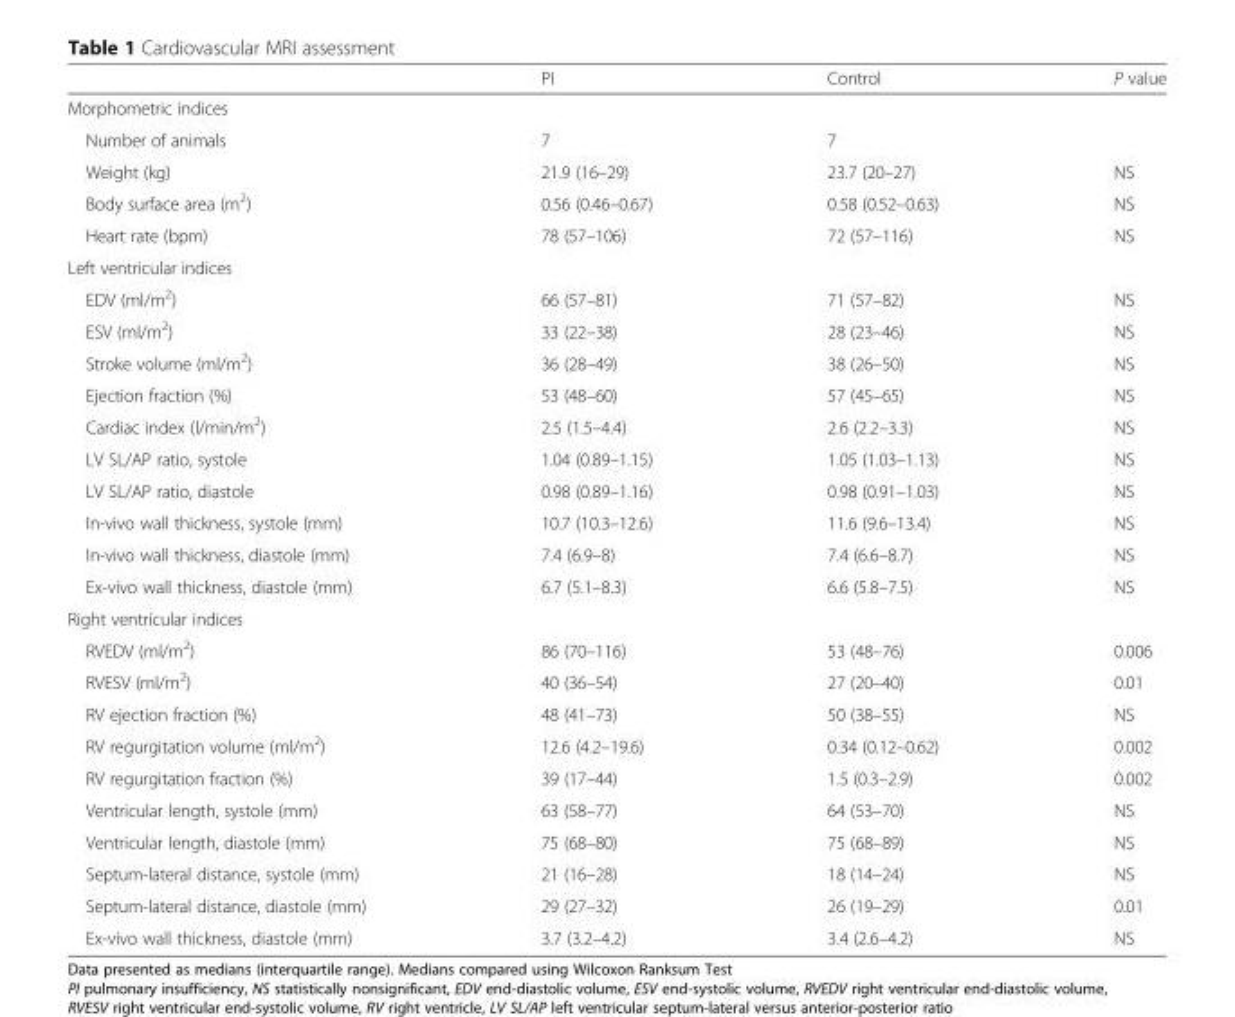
<table><thead><tr><td></td><td>PI</td><td>Control</td><td>P value</td></tr></thead><tbody><tr><td colspan="4">Morphometric indices</td></tr><tr><td>Number of animals</td><td>7</td><td>7</td><td></td></tr><tr><td>Weight (kg)</td><td>21.9 (16–29)</td><td>23.7 (20–27)</td><td>NS</td></tr><tr><td>Body surface area (m<sup>2</sup>)</td><td>0.56 (0.46–0.67)</td><td>0.58 (0.52–0.63)</td><td>NS</td></tr><tr><td>Heart rate (bpm)</td><td>78 (57–106)</td><td>72 (57–116)</td><td>NS</td></tr><tr><td colspan="4">Left ventricular indices</td></tr><tr><td>EDV (ml/m<sup>2</sup>)</td><td>66 (57–81)</td><td>71 (57–82)</td><td>NS</td></tr><tr><td>ESV (ml/m<sup>2</sup>)</td><td>33 (22–38)</td><td>28 (23–46)</td><td>NS</td></tr><tr><td>Stroke volume (ml/m<sup>2</sup>)</td><td>36 (28–49)</td><td>38 (26–50)</td><td>NS</td></tr><tr><td>Ejection fraction (%)</td><td>53 (48–60)</td><td>57 (45–65)</td><td>NS</td></tr><tr><td>Cardiac index (l/min/m<sup>2</sup>)</td><td>2.5 (1.5–4.4)</td><td>2.6 (2.2–3.3)</td><td>NS</td></tr><tr><td>LV SL/AP ratio, systole</td><td>1.04 (0.89–1.15)</td><td>1.05 (1.03–1.13)</td><td>NS</td></tr><tr><td>LV SL/AP ratio, diastole</td><td>0.98 (0.89–1.16)</td><td>0.98 (0.91–1.03)</td><td>NS</td></tr><tr><td>In-vivo wall thickness, systole (mm)</td><td>10.7 (10.3–12.6)</td><td>11.6 (9.6–13.4)</td><td>NS</td></tr><tr><td>In-vivo wall thickness, diastole (mm)</td><td>7.4 (6.9–8)</td><td>7.4 (6.6–8.7)</td><td>NS</td></tr><tr><td>Ex-vivo wall thickness, diastole (mm)</td><td>6.7 (5.1–8.3)</td><td>6.6 (5.8–7.5)</td><td>NS</td></tr><tr><td colspan="4">Right ventricular indices</td></tr><tr><td>RVEDV (ml/m<sup>2</sup>)</td><td>86 (70–116)</td><td>53 (48–76)</td><td>0.006</td></tr><tr><td>RVESV (ml/m<sup>2</sup>)</td><td>40 (36–54)</td><td>27 (20–40)</td><td>0.01</td></tr><tr><td>RV ejection fraction (%)</td><td>48 (41–73)</td><td>50 (38–55)</td><td>NS</td></tr><tr><td>RV regurgitation volume (ml/m<sup>2</sup>)</td><td>12.6 (4.2–19.6)</td><td>0.34 (0.12–0.62)</td><td>0.002</td></tr><tr><td>RV regurgitation fraction (%)</td><td>39 (17–44)</td><td>1.5 (0.3–2.9)</td><td>0.002</td></tr><tr><td>Ventricular length, systole (mm)</td><td>63 (58–77)</td><td>64 (53–70)</td><td>NS</td></tr><tr><td>Ventricular length, diastole (mm)</td><td>75 (68–80)</td><td>75 (68–89)</td><td>NS</td></tr><tr><td>Septum-lateral distance, systole (mm)</td><td>21 (16–28)</td><td>18 (14–24)</td><td>NS</td></tr><tr><td>Septum-lateral distance, diastole (mm)</td><td>29 (27–32)</td><td>26 (19–29)</td><td>0.01</td></tr><tr><td>Ex-vivo wall thickness, diastole (mm)</td><td>3.7 (3.2–4.2)</td><td>3.4 (2.6–4.2)</td><td>NS</td></tr></tbody></table>